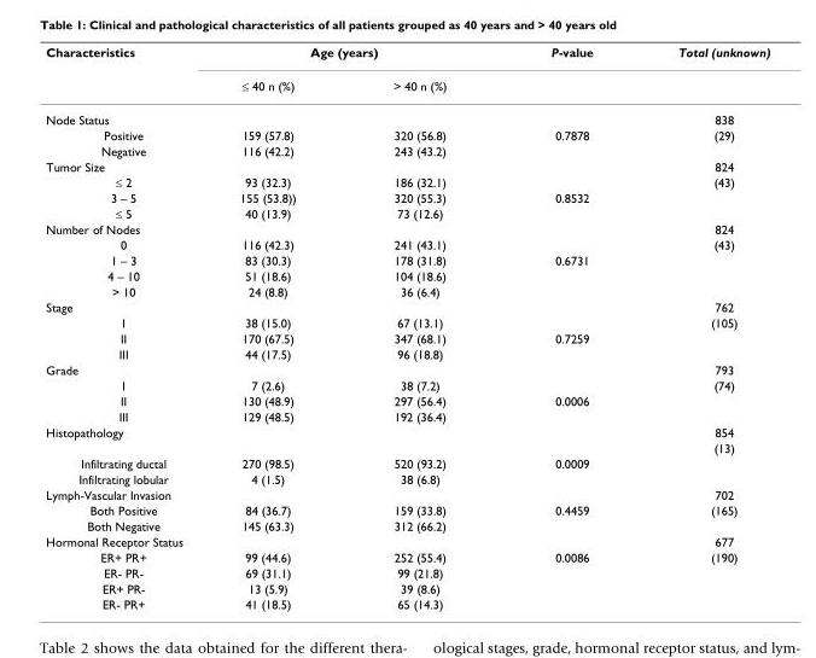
<table><thead><tr><td rowspan="2">Characteristics</td><td colspan="2">Age (years)</td><td rowspan="2">P-value</td><td rowspan="2">Total (unknown)</td></tr><tr><td>≤ 40 n (%)</td><td>&gt; 40 n (%)</td></tr></thead><tbody><tr><td>Node Status</td><td></td><td></td><td></td><td>838</td></tr><tr><td>Positive</td><td>159 (57.8)</td><td>320 (56.8)</td><td>0.7878</td><td>(29)</td></tr><tr><td>Negative</td><td>116 (42.2)</td><td>243 (43.2)</td><td></td><td></td></tr><tr><td>Tumor Size</td><td></td><td></td><td></td><td>824</td></tr><tr><td>≤ 2</td><td>93 (32.3)</td><td>186 (32.1)</td><td></td><td>(43)</td></tr><tr><td>3 – 5</td><td>155 (53.8))</td><td>320 (55.3)</td><td>0.8532</td><td></td></tr><tr><td>≤ 5</td><td>40 (13.9)</td><td>73 (12.6)</td><td></td><td></td></tr><tr><td>Number of Nodes</td><td></td><td></td><td></td><td>824</td></tr><tr><td>0</td><td>116 (42.3)</td><td>241 (43.1)</td><td></td><td>(43)</td></tr><tr><td>1 – 3</td><td>83 (30.3)</td><td>178 (31.8)</td><td>0.6731</td><td></td></tr><tr><td>4 – 10</td><td>51 (18.6)</td><td>104 (18.6)</td><td></td><td></td></tr><tr><td>&gt; 10</td><td>24 (8.8)</td><td>36 (6.4)</td><td></td><td></td></tr><tr><td>Stage</td><td></td><td></td><td></td><td>762</td></tr><tr><td>I</td><td>38 (15.0)</td><td>67 (13.1)</td><td></td><td>(105)</td></tr><tr><td>II</td><td>170 (67.5)</td><td>347 (68.1)</td><td>0.7259</td><td></td></tr><tr><td>III</td><td>44 (17.5)</td><td>96 (18.8)</td><td></td><td></td></tr><tr><td>Grade</td><td></td><td></td><td></td><td>793</td></tr><tr><td>I</td><td>7 (2.6)</td><td>38 (7.2)</td><td></td><td>(74)</td></tr><tr><td>II</td><td>130 (48.9)</td><td>297 (56.4)</td><td>0.0006</td><td></td></tr><tr><td>III</td><td>129 (48.5)</td><td>192 (36.4)</td><td></td><td></td></tr><tr><td rowspan="2">Histopathology</td><td></td><td></td><td></td><td>854</td></tr><tr><td></td><td></td><td></td><td>(13)</td></tr><tr><td>Infiltrating ductal</td><td>270 (98.5)</td><td>520 (93.2)</td><td>0.0009</td><td></td></tr><tr><td>Infiltrating lobular</td><td>4 (1.5)</td><td>38 (6.8)</td><td></td><td></td></tr><tr><td>Lymph-Vascular Invasion</td><td></td><td></td><td></td><td>702</td></tr><tr><td>Both Positive</td><td>84 (36.7)</td><td>159 (33.8)</td><td>0.4459</td><td>(165)</td></tr><tr><td>Both Negative</td><td>145 (63.3)</td><td>312 (66.2)</td><td></td><td></td></tr><tr><td>Hormonal Receptor Status</td><td></td><td></td><td></td><td>677</td></tr><tr><td>ER+ PR+</td><td>99 (44.6)</td><td>252 (55.4)</td><td>0.0086</td><td>(190)</td></tr><tr><td>ER- PR-</td><td>69 (31.1)</td><td>99 (21.8)</td><td></td><td></td></tr><tr><td>ER+ PR-</td><td>13 (5.9)</td><td>39 (8.6)</td><td></td><td></td></tr><tr><td>ER- PR+</td><td>41 (18.5)</td><td>65 (14.3)</td><td></td><td></td></tr></tbody></table>